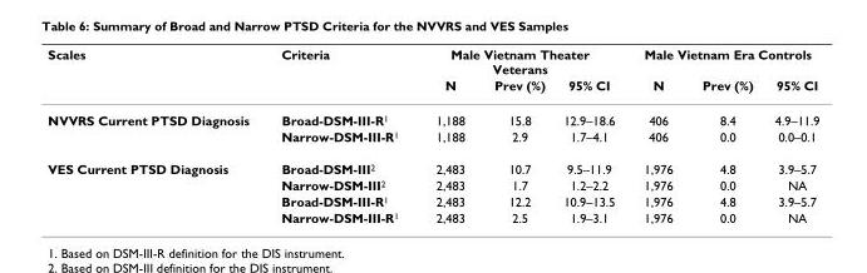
<table><thead><tr><td rowspan="2">Scales</td><td rowspan="2">Criteria</td><td colspan="3">Male Vietnam Theater Veterans</td><td colspan="3">Male Vietnam Era Controls</td></tr><tr><td>N</td><td>Prev (%)</td><td>95% CI</td><td>N</td><td>Prev (%)</td><td>95% CI</td></tr></thead><tbody><tr><td rowspan="2">NVVRS Current PTSD Diagnosis</td><td>Broad-DSM-III-R<sup>1</sup></td><td>1,188</td><td>15.8</td><td>12.9–18.6</td><td>406</td><td>8.4</td><td>4.9–11.9</td></tr><tr><td>Narrow-DSM-III-R<sup>1</sup></td><td>1,188</td><td>2.9</td><td>1.7–4.1</td><td>406</td><td>0.0</td><td>0.0–0.1</td></tr><tr><td rowspan="4">VES Current PTSD Diagnosis</td><td>Broad-DSM-III<sup>2</sup></td><td>2,483</td><td>10.7</td><td>9.5–11.9</td><td>1,976</td><td>4.8</td><td>3.9–5.7</td></tr><tr><td>Narrow-DSM-III<sup>2</sup></td><td>2,483</td><td>1.7</td><td>1.2–2.2</td><td>1,976</td><td>0.0</td><td>NA</td></tr><tr><td>Broad-DSM-III-R<sup>1</sup></td><td>2,483</td><td>12.2</td><td>10.9–13.5</td><td>1,976</td><td>4.8</td><td>3.9–5.7</td></tr><tr><td>Narrow-DSM-III-R<sup>1</sup></td><td>2,483</td><td>2.5</td><td>1.9–3.1</td><td>1,976</td><td>0.0</td><td>NA</td></tr></tbody></table>